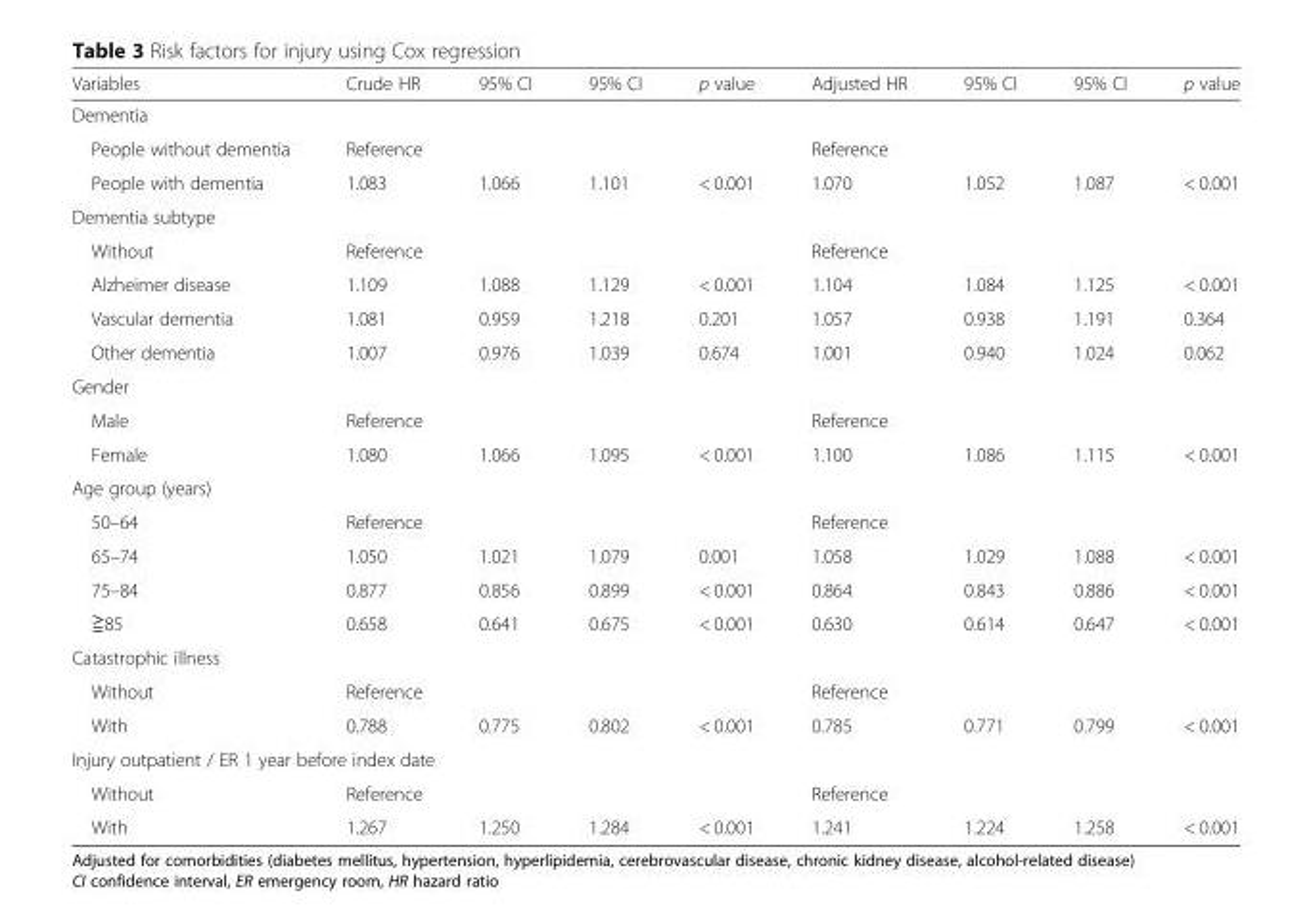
<table><thead><tr><td>Variables</td><td>Crude HR</td><td>95% CI</td><td>95% CI</td><td>p value</td><td>Adjusted HR</td><td>95% CI</td><td>95% CI</td><td>p value</td></tr></thead><tbody><tr><td colspan="9">Dementia</td></tr><tr><td>People without dementia</td><td>Reference</td><td></td><td></td><td></td><td>Reference</td><td></td><td></td><td></td></tr><tr><td>People with dementia</td><td>1.083</td><td>1.066</td><td>1.101</td><td>&lt; 0.001</td><td>1.070</td><td>1.052</td><td>1.087</td><td>&lt; 0.001</td></tr><tr><td colspan="9">Dementia subtype</td></tr><tr><td>Without</td><td>Reference</td><td></td><td></td><td></td><td>Reference</td><td></td><td></td><td></td></tr><tr><td>Alzheimer disease</td><td>1.109</td><td>1.088</td><td>1.129</td><td>&lt; 0.001</td><td>1.104</td><td>1.084</td><td>1.125</td><td>&lt; 0.001</td></tr><tr><td>Vascular dementia</td><td>1.081</td><td>0.959</td><td>1.218</td><td>0.201</td><td>1.057</td><td>0.938</td><td>1.191</td><td>0.364</td></tr><tr><td>Other dementia</td><td>1.007</td><td>0.976</td><td>1.039</td><td>0.674</td><td>1.001</td><td>0.940</td><td>1.024</td><td>0.062</td></tr><tr><td colspan="9">Gender</td></tr><tr><td>Male</td><td>Reference</td><td></td><td></td><td></td><td>Reference</td><td></td><td></td><td></td></tr><tr><td>Female</td><td>1.080</td><td>1.066</td><td>1.095</td><td>&lt; 0.001</td><td>1.100</td><td>1.086</td><td>1.115</td><td>&lt; 0.001</td></tr><tr><td colspan="9">Age group (years)</td></tr><tr><td>50–64</td><td>Reference</td><td></td><td></td><td></td><td>Reference</td><td></td><td></td><td></td></tr><tr><td>65–74</td><td>1.050</td><td>1.021</td><td>1.079</td><td>0.001</td><td>1.058</td><td>1.029</td><td>1.088</td><td>&lt; 0.001</td></tr><tr><td>75–84</td><td>0.877</td><td>0.856</td><td>0.899</td><td>&lt; 0.001</td><td>0.864</td><td>0.843</td><td>0.886</td><td>&lt; 0.001</td></tr><tr><td>≧85</td><td>0.658</td><td>0.641</td><td>0.675</td><td>&lt; 0.001</td><td>0.630</td><td>0.614</td><td>0.647</td><td>&lt; 0.001</td></tr><tr><td colspan="9">Catastrophic illness</td></tr><tr><td>Without</td><td>Reference</td><td></td><td></td><td></td><td>Reference</td><td></td><td></td><td></td></tr><tr><td>With</td><td>0.788</td><td>0.775</td><td>0.802</td><td>&lt; 0.001</td><td>0.785</td><td>0.771</td><td>0.799</td><td>&lt; 0.001</td></tr><tr><td colspan="9">Injury outpatient / ER 1 year before index date</td></tr><tr><td>Without</td><td>Reference</td><td></td><td></td><td></td><td>Reference</td><td></td><td></td><td></td></tr><tr><td>With</td><td>1.267</td><td>1.250</td><td>1.284</td><td>&lt; 0.001</td><td>1.241</td><td>1.224</td><td>1.258</td><td>&lt; 0.001</td></tr></tbody></table>